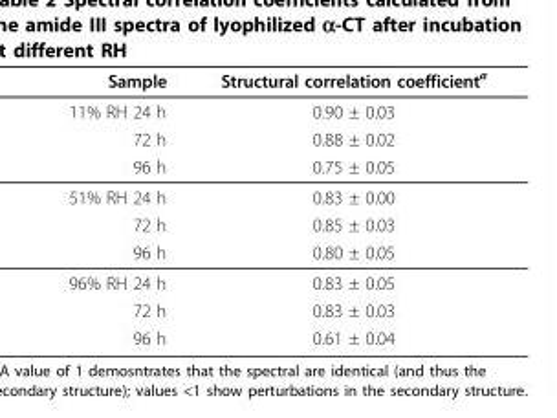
<table><thead><tr><td>Sample</td><td>Structural correlation coefficient<sup>a</sup></td></tr></thead><tbody><tr><td>11% RH 24 h</td><td>0.90 ± 0.03</td></tr><tr><td>72 h</td><td>0.88 ± 0.02</td></tr><tr><td>96 h</td><td>0.75 ± 0.05</td></tr><tr><td>51% RH 24 h</td><td>0.83 ± 0.00</td></tr><tr><td>72 h</td><td>0.85 ± 0.03</td></tr><tr><td>96 h</td><td>0.80 ± 0.05</td></tr><tr><td>96% RH 24 h</td><td>0.83 ± 0.05</td></tr><tr><td>72 h</td><td>0.83 ± 0.03</td></tr><tr><td>96 h</td><td>0.61 ± 0.04</td></tr></tbody></table>